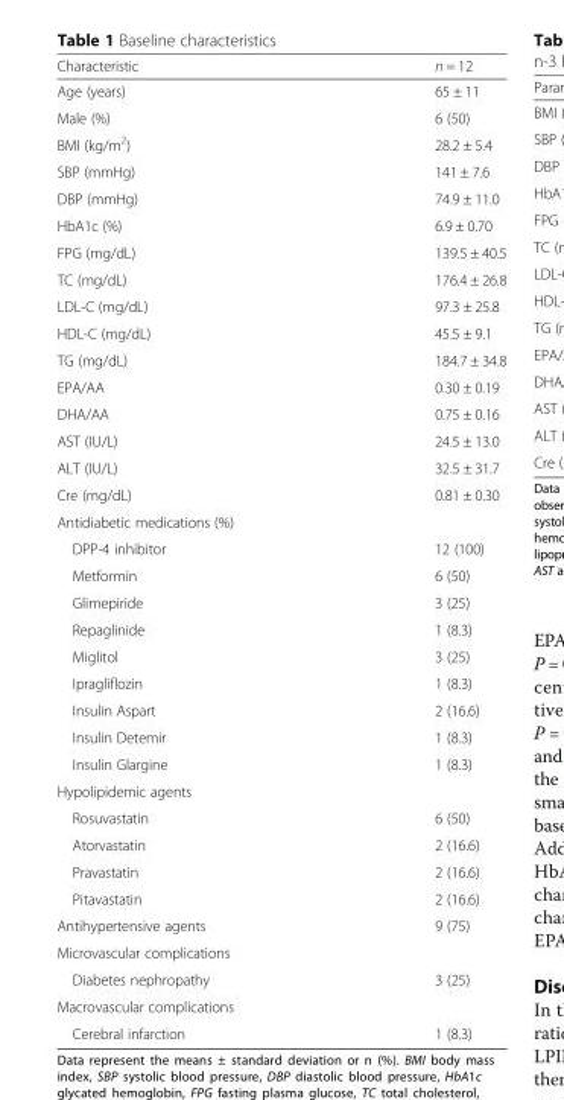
<table><thead><tr><td>Characteristic</td><td>n = 12</td></tr></thead><tbody><tr><td>Age (years)</td><td>65 ± 11</td></tr><tr><td>Male (%)</td><td>6 (50)</td></tr><tr><td>BMI (kg/m<sup>2</sup>)</td><td>28.2 ± 5.4</td></tr><tr><td>SBP (mmHg)</td><td>141 ± 7.6</td></tr><tr><td>DBP (mmHg)</td><td>74.9 ± 11.0</td></tr><tr><td>HbA1c (%)</td><td>6.9 ± 0.70</td></tr><tr><td>FPG (mg/dL)</td><td>139.5 ± 40.5</td></tr><tr><td>TC (mg/dL)</td><td>176.4 ± 26.8</td></tr><tr><td>LDL-C (mg/dL)</td><td>97.3 ± 25.8</td></tr><tr><td>HDL-C (mg/dL)</td><td>45.5 ± 9.1</td></tr><tr><td>TG (mg/dL)</td><td>184.7 ± 34.8</td></tr><tr><td>EPA/AA</td><td>0.30 ± 0.19</td></tr><tr><td>DHA/AA</td><td>0.75 ± 0.16</td></tr><tr><td>AST (IU/L)</td><td>24.5 ± 13.0</td></tr><tr><td>ALT (IU/L)</td><td>32.5 ± 31.7</td></tr><tr><td>Cre (mg/dL)</td><td>0.81 ± 0.30</td></tr><tr><td colspan="2">Antidiabetic medications (%)</td></tr><tr><td>DPP-4 inhibitor</td><td>12 (100)</td></tr><tr><td>Metformin</td><td>6 (50)</td></tr><tr><td>Glimepiride</td><td>3 (25)</td></tr><tr><td>Repaglinide</td><td>1 (8.3)</td></tr><tr><td>Miglitol</td><td>3 (25)</td></tr><tr><td>Ipragliflozin</td><td>1 (8.3)</td></tr><tr><td>Insulin Aspart</td><td>2 (16.6)</td></tr><tr><td>Insulin Detemir</td><td>1 (8.3)</td></tr><tr><td>Insulin Glargine</td><td>1 (8.3)</td></tr><tr><td colspan="2">Hypolipidemic agents</td></tr><tr><td>Rosuvastatin</td><td>6 (50)</td></tr><tr><td>Atorvastatin</td><td>2 (16.6)</td></tr><tr><td>Pravastatin</td><td>2 (16.6)</td></tr><tr><td>Pitavastatin</td><td>2 (16.6)</td></tr><tr><td>Antihypertensive agents</td><td>9 (75)</td></tr><tr><td colspan="2">Microvascular complications</td></tr><tr><td>Diabetes nephropathy</td><td>3 (25)</td></tr><tr><td colspan="2">Macrovascular complications</td></tr><tr><td>Cerebral infarction</td><td>1 (8.3)</td></tr></tbody></table>